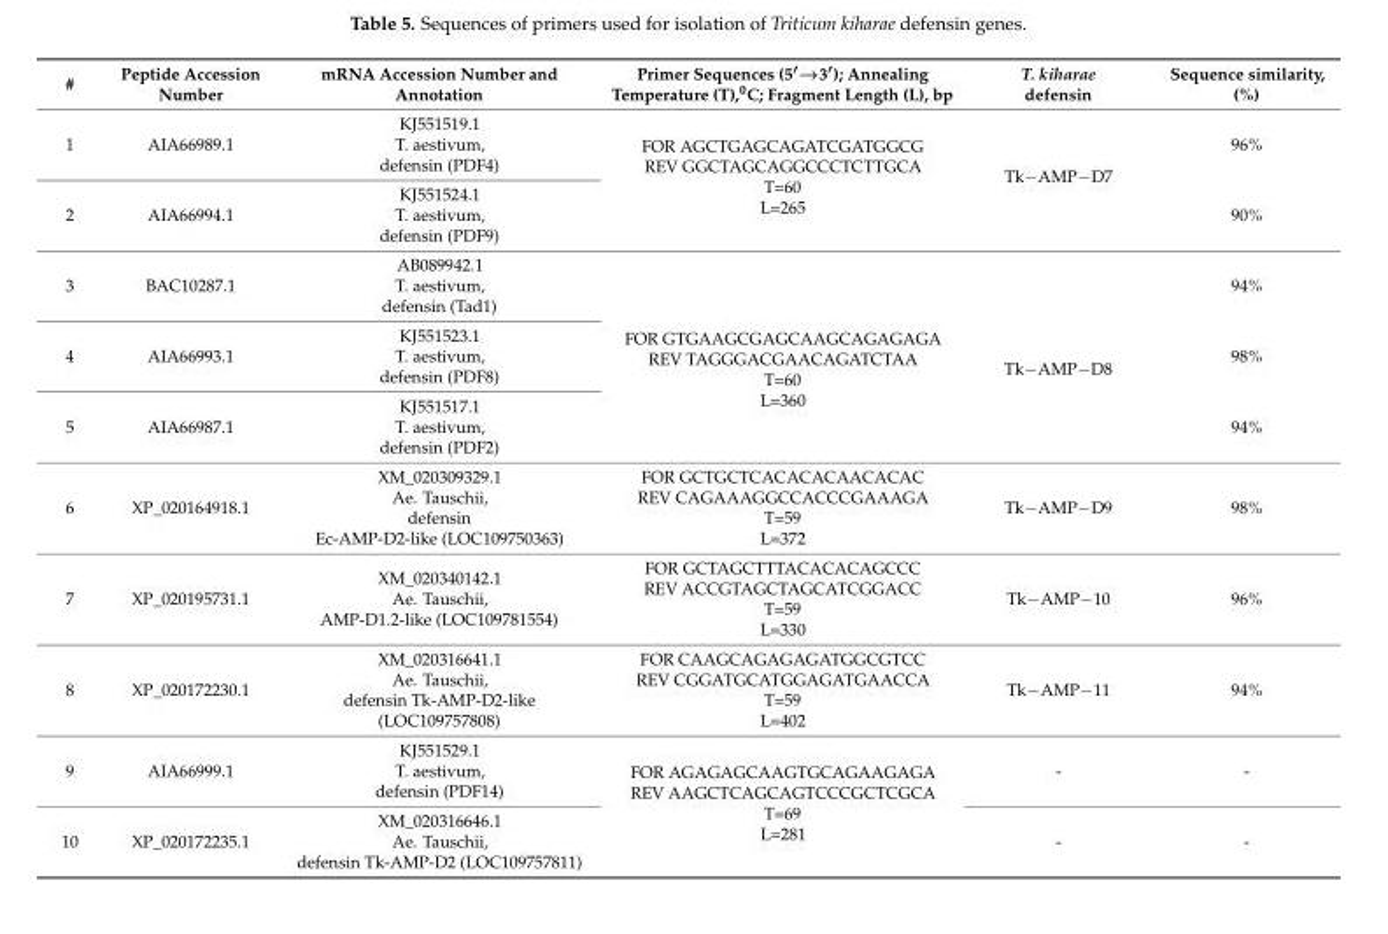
<table><thead><tr><td>#</td><td>Peptide Accession Number</td><td>mRNA Accession Number and Annotation</td><td>Primer Sequences (5′→3′); Annealing Temperature (T),<sup>0</sup>C; Fragment Length (L), bp</td><td>T. kiharae defensin</td><td>Sequence similarity, (%)</td></tr></thead><tbody><tr><td>1</td><td>AIA66989.1</td><td>KJ551519.1 T. aestivum, defensin (PDF4)</td><td rowspan="2">FOR AGCTGAGCAGATCGATGGCG REV GGCTAGCAGGCCCTCTTGCA T=60 L=265</td><td rowspan="2">Tk−AMP−D7</td><td>96%</td></tr><tr><td>2</td><td>AIA66994.1</td><td>KJ551524.1 T. aestivum, defensin (PDF9)</td><td>90%</td></tr><tr><td>3</td><td>BAC10287.1</td><td>AB089942.1 T. aestivum, defensin (Tad1)</td><td rowspan="3">FOR GTGAAGCGAGCAAGCAGAGAGA REV TAGGGACGAACAGATCTAA T=60 L=360</td><td rowspan="3">Tk−AMP−D8</td><td>94%</td></tr><tr><td>4</td><td>AIA66993.1</td><td>KJ551523.1 T. aestivum, defensin (PDF8)</td><td>98%</td></tr><tr><td>5</td><td>AIA66987.1</td><td>KJ551517.1 T. aestivum, defensin (PDF2)</td><td>94%</td></tr><tr><td>6</td><td>XP_020164918.1</td><td>XM_020309329.1 Ae. Tauschii, defensin Ec-AMP-D2-like (LOC109750363)</td><td>FOR GCTGCTCACACACAACACAC REV CAGAAAGGCCACCCGAAAGA T=59 L=372</td><td>Tk−AMP−D9</td><td>98%</td></tr><tr><td>7</td><td>XP_020195731.1</td><td>XM_020340142.1 Ae. Tauschii, AMP-D1.2-like (LOC109781554)</td><td>FOR GCTAGCTTTACACACAGCCC REV ACCGTAGCTAGCATCGGACC T=59 L=330</td><td>Tk−AMP−10</td><td>96%</td></tr><tr><td>8</td><td>XP_020172230.1</td><td>XM_020316641.1 Ae. Tauschii, defensin Tk-AMP-D2-like (LOC109757808)</td><td>FOR CAAGCAGAGAGATGGCGTCC REV CGGATGCATGGAGATGAACCA T=59 L=402</td><td>Tk−AMP−11</td><td>94%</td></tr><tr><td>9</td><td>AIA66999.1</td><td>KJ551529.1 T. aestivum, defensin (PDF14)</td><td rowspan="2">FOR AGAGAGCAAGTGCAGAAGAGA REV AAGCTCAGCAGTCCCGCTCGCA T=69 L=281</td><td>-</td><td>-</td></tr><tr><td>10</td><td>XP_020172235.1</td><td>XM_020316646.1 Ae. Tauschii, defensin Tk-AMP-D2 (LOC109757811)</td><td>-</td><td>-</td></tr></tbody></table>